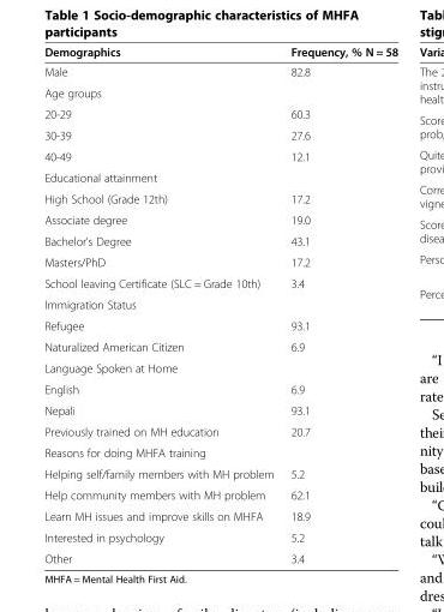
<table><thead><tr><td>Demographics</td><td>Frequency, % N = 58</td></tr></thead><tbody><tr><td>Male</td><td>82.8</td></tr><tr><td colspan="2">Age groups</td></tr><tr><td>20-29</td><td>60.3</td></tr><tr><td>30-39</td><td>27.6</td></tr><tr><td>40-49</td><td>12.1</td></tr><tr><td colspan="2">Educational attainment</td></tr><tr><td>High School (Grade 12th)</td><td>17.2</td></tr><tr><td>Associate degree</td><td>19.0</td></tr><tr><td>Bachelor’s Degree</td><td>43.1</td></tr><tr><td>Masters/PhD</td><td>17.2</td></tr><tr><td>School leaving Certificate (SLC = Grade 10th)</td><td>3.4</td></tr><tr><td colspan="2">Immigration Status</td></tr><tr><td>Refugee</td><td>93.1</td></tr><tr><td>Naturalized American Citizen</td><td>6.9</td></tr><tr><td colspan="2">Language Spoken at Home</td></tr><tr><td>English</td><td>6.9</td></tr><tr><td>Nepali</td><td>93.1</td></tr><tr><td>Previously trained on MH education</td><td>20.7</td></tr><tr><td colspan="2">Reasons for doing MHFA training</td></tr><tr><td>Helping self/family members with MH problem</td><td>5.2</td></tr><tr><td>Help community members with MH problem</td><td>62.1</td></tr><tr><td>Learn MH issues and improve skills on MHFA</td><td>18.9</td></tr><tr><td>Interested in psychology</td><td>5.2</td></tr><tr><td>Other</td><td>3.4</td></tr></tbody></table>